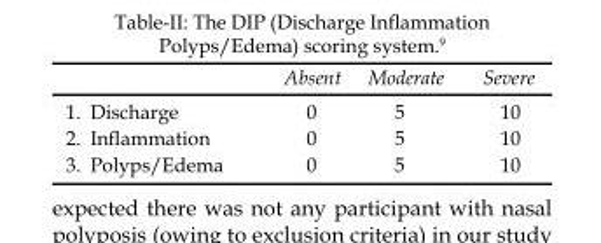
<table><thead><tr><td></td><td>Absent</td><td>Moderate</td><td>Severe</td></tr></thead><tbody><tr><td>1. Discharge</td><td>0</td><td>5</td><td>10</td></tr><tr><td>2. Inflammation</td><td>0</td><td>5</td><td>10</td></tr><tr><td>3. Polyps/Edema</td><td>0</td><td>5</td><td>10</td></tr></tbody></table>